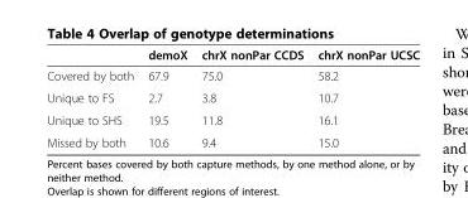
<table><thead><tr><td></td><td>demoX</td><td>chrX nonPar CCDS</td><td>chrX nonPar UCSC</td></tr></thead><tbody><tr><td>Covered by both</td><td>67.9</td><td>75.0</td><td>58.2</td></tr><tr><td>Unique to FS</td><td>2.7</td><td>3.8</td><td>10.7</td></tr><tr><td>Unique to SHS</td><td>19.5</td><td>11.8</td><td>16.1</td></tr><tr><td>Missed by both</td><td>10.6</td><td>9.4</td><td>15.0</td></tr></tbody></table>